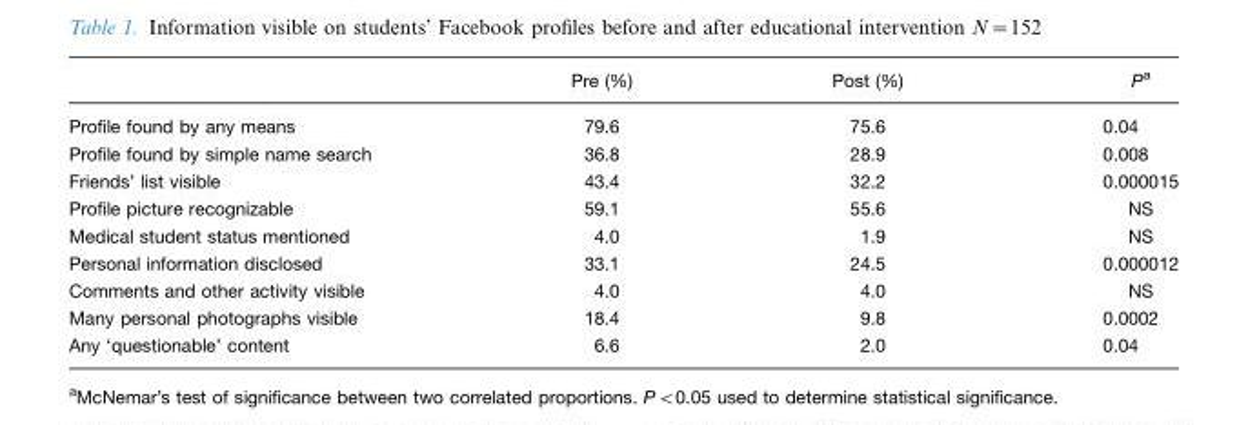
<table><thead><tr><td></td><td>Pre (%)</td><td>Post (%)</td><td>Pa</td></tr></thead><tbody><tr><td>Profile found by any means</td><td>79.6</td><td>75.6</td><td>0.04</td></tr><tr><td>Profile found by simple name search</td><td>36.8</td><td>28.9</td><td>0.008</td></tr><tr><td>Friends’ list visible</td><td>43.4</td><td>32.2</td><td>0.000015</td></tr><tr><td>Profile picture recognizable</td><td>59.1</td><td>55.6</td><td>NS</td></tr><tr><td>Medical student status mentioned</td><td>4.0</td><td>1.9</td><td>NS</td></tr><tr><td>Personal information disclosed</td><td>33.1</td><td>24.5</td><td>0.000012</td></tr><tr><td>Comments and other activity visible</td><td>4.0</td><td>4.0</td><td>NS</td></tr><tr><td>Many personal photographs visible</td><td>18.4</td><td>9.8</td><td>0.0002</td></tr><tr><td>Any ‘questionable’ content</td><td>6.6</td><td>2.0</td><td>0.04</td></tr></tbody></table>